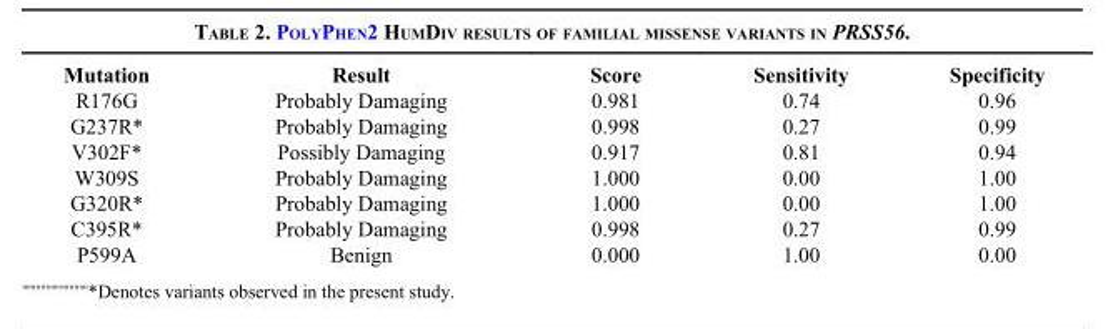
<table><thead><tr><td>Mutation</td><td>Result</td><td>Score</td><td>Sensitivity</td><td>Specificity</td></tr></thead><tbody><tr><td>R176G</td><td>Probably Damaging</td><td>0.981</td><td>0.74</td><td>0.96</td></tr><tr><td>G237R*</td><td>Probably Damaging</td><td>0.998</td><td>0.27</td><td>0.99</td></tr><tr><td>V302F*</td><td>Possibly Damaging</td><td>0.917</td><td>0.81</td><td>0.94</td></tr><tr><td>W309S</td><td>Probably Damaging</td><td>1.000</td><td>0.00</td><td>1.00</td></tr><tr><td>G320R*</td><td>Probably Damaging</td><td>1.000</td><td>0.00</td><td>1.00</td></tr><tr><td>C395R*</td><td>Probably Damaging</td><td>0.998</td><td>0.27</td><td>0.99</td></tr><tr><td>P599A</td><td>Benign</td><td>0.000</td><td>1.00</td><td>0.00</td></tr></tbody></table>